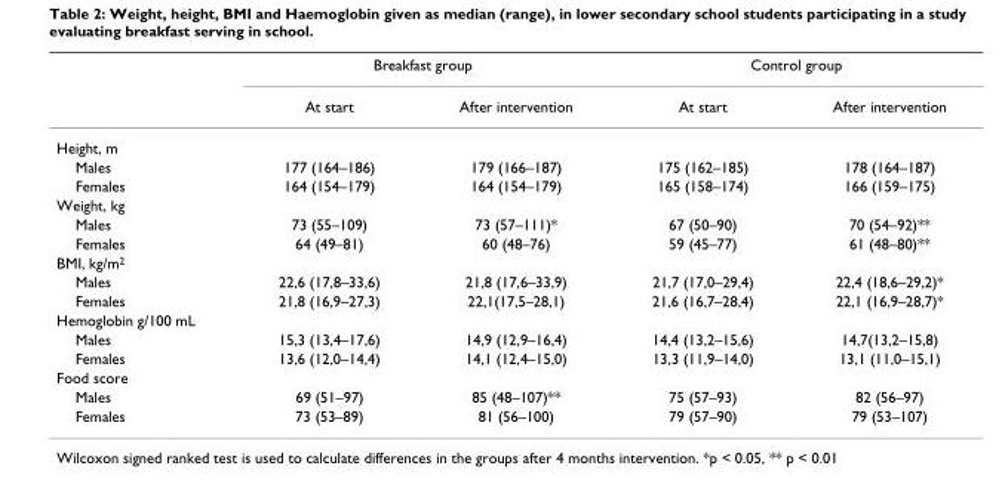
<table><thead><tr><td rowspan="2"></td><td colspan="2">Breakfast group</td><td colspan="2">Control group</td></tr><tr><td>At start</td><td>After intervention</td><td>At start</td><td>After intervention</td></tr></thead><tbody><tr><td colspan="5">Height, m</td></tr><tr><td>Males</td><td>177 (164–186)</td><td>179 (166–187)</td><td>175 (162–185)</td><td>178 (164–187)</td></tr><tr><td>Females</td><td>164 (154–179)</td><td>164 (154–179)</td><td>165 (158–174)</td><td>166 (159–175)</td></tr><tr><td colspan="5">Weight, kg</td></tr><tr><td>Males</td><td>73 (55–109)</td><td>73 (57–111)*</td><td>67 (50–90)</td><td>70 (54–92)**</td></tr><tr><td>Females</td><td>64 (49–81)</td><td>60 (48–76)</td><td>59 (45–77)</td><td>61 (48–80)**</td></tr><tr><td colspan="5">BMI, kg/m<sup>2</sup></td></tr><tr><td>Males</td><td>22,6 (17,8–33,6)</td><td>21,8 (17,6–33,9)</td><td>21,7 (17,0–29,4)</td><td>22,4 (18,6–29,2)*</td></tr><tr><td>Females</td><td>21,8 (16,9–27,3)</td><td>22,1(17,5–28,1)</td><td>21,6 (16,7–28,4)</td><td>22,1 (16,9–28,7)*</td></tr><tr><td colspan="5">Hemoglobin g/100 mL</td></tr><tr><td>Males</td><td>15,3 (13,4–17,6)</td><td>14,9 (12,9–16,4)</td><td>14,4 (13,2–15,6)</td><td>14,7(13,2–15,8)</td></tr><tr><td>Females</td><td>13,6 (12,0–14,4)</td><td>14,1 (12,4–15,0)</td><td>13,3 (11,9–14,0)</td><td>13,1 (11,0–15,1)</td></tr><tr><td colspan="5">Food score</td></tr><tr><td>Males</td><td>69 (51–97)</td><td>85 (48–107)**</td><td>75 (57–93)</td><td>82 (56–97)</td></tr><tr><td>Females</td><td>73 (53–89)</td><td>81 (56–100)</td><td>79 (57–90)</td><td>79 (53–107)</td></tr></tbody></table>